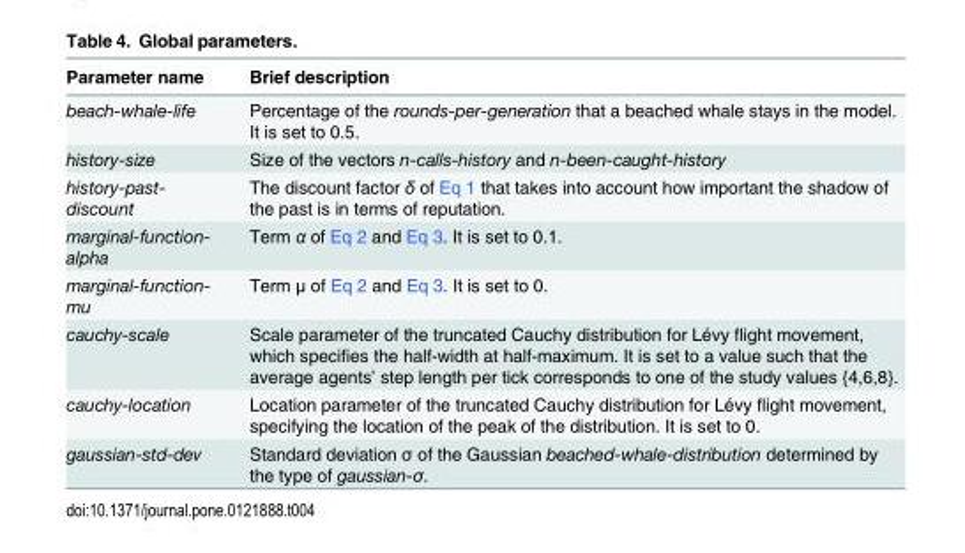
<table><thead><tr><td>Parameter name</td><td>Brief description</td></tr></thead><tbody><tr><td>beach-whale-life</td><td>Percentage of the rounds-per-generation that a beached whale stays in the model. It is set to 0.5.</td></tr><tr><td>history-size</td><td>Size of the vectors n-calls-history and n-been-caught-history</td></tr><tr><td>history-past- discount</td><td>The discount factor δ of Eq 1 that takes into account how important the shadow of the past is in terms of reputation.</td></tr><tr><td>marginal-function- alpha</td><td>Term α of Eq 2 and Eq 3. It is set to 0.1.</td></tr><tr><td>marginal-function- mu</td><td>Term μ of Eq 2 and Eq 3. It is set to 0.</td></tr><tr><td>cauchy-scale</td><td>Scale parameter of the truncated Cauchy distribution for Lévy flight movement, which specifies the half-width at half-maximum. It is set to a value such that the average agents’ step length per tick corresponds to one of the study values {4,6,8}.</td></tr><tr><td>cauchy-location</td><td>Location parameter of the truncated Cauchy distribution for Lévy flight movement, specifying the location of the peak of the distribution. It is set to 0.</td></tr><tr><td>gaussian-std-dev</td><td>Standard deviation σ of the Gaussian beached-whale-distribution determined by the type of gaussian-σ.</td></tr></tbody></table>